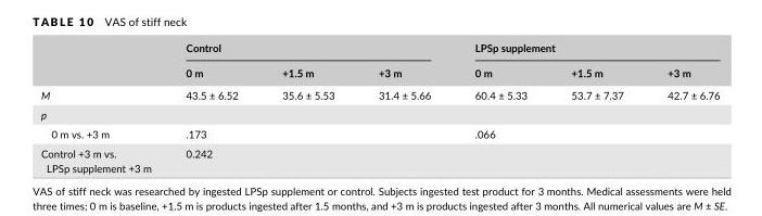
<table><thead><tr><td rowspan="2"></td><td colspan="3">Control</td><td colspan="3">LPSp supplement</td></tr><tr><td>0 m</td><td>+1.5 m</td><td>+3 m</td><td>0 m</td><td>+1.5 m</td><td>+3 m</td></tr></thead><tbody><tr><td>M</td><td>43.5 ± 6.52</td><td>35.6 ± 5.53</td><td>31.4 ± 5.66</td><td>60.4 ± 5.33</td><td>53.7 ± 7.37</td><td>42.7 ± 6.76</td></tr><tr><td colspan="7">p</td></tr><tr><td>0 m vs. +3 m</td><td colspan="3">.173</td><td colspan="3">.066</td></tr><tr><td>Control +3 m vs. LPSp supplement +3 m</td><td colspan="6">0.242</td></tr></tbody></table>